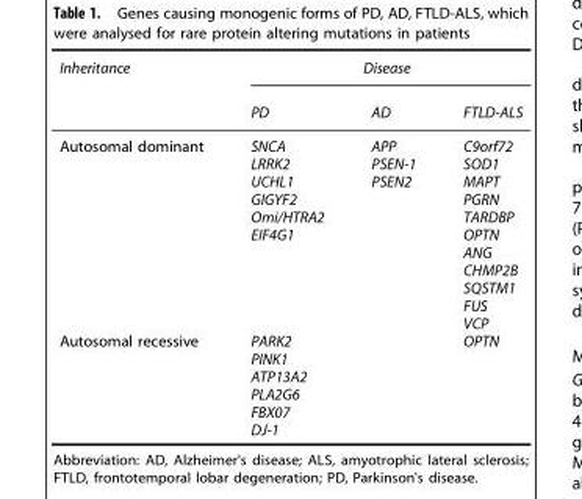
<table><thead><tr><td rowspan="2">Inheritance</td><td colspan="3">Disease</td></tr><tr><td>PD</td><td>AD</td><td>FTLD-ALS</td></tr></thead><tbody><tr><td>Autosomal dominant</td><td>SNCA LRRK2 UCHL1 GIGYF2 Omi/HTRA2 EIF4G1</td><td>APP PSEN-1 PSEN2</td><td>C9orf72 SOD1 MAPT PGRN TARDBP OPTN ANG CHMP2B SQSTM1 FUS VCP</td></tr><tr><td>Autosomal recessive</td><td>PARK2 PINK1 ATP13A2 PLA2G6 FBX07 DJ-1</td><td></td><td>OPTN</td></tr></tbody></table>